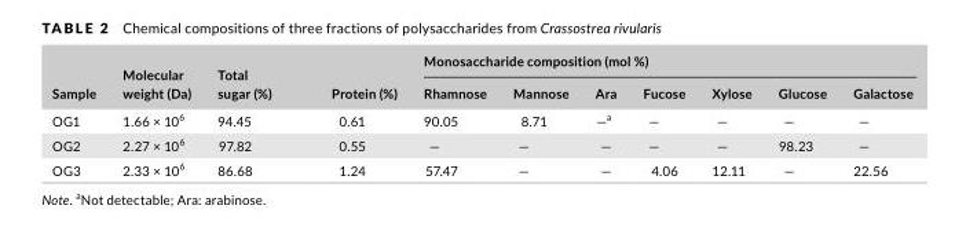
<table><thead><tr><td rowspan="2">Sample</td><td rowspan="2">Molecular weight (Da)</td><td rowspan="2">Total sugar (%)</td><td rowspan="2">Protein (%)</td><td colspan="7">Monosaccharide composition (mol %)</td></tr><tr><td>Rhamnose</td><td>Mannose</td><td>Ara</td><td>Fucose</td><td>Xylose</td><td>Glucose</td><td>Galactose</td></tr></thead><tbody><tr><td>OG1</td><td>1.66 × 10<sup>6</sup></td><td>94.45</td><td>0.61</td><td>90.05</td><td>8.71</td><td>—a</td><td>—</td><td>—</td><td>—</td><td>—</td></tr><tr><td>OG2</td><td>2.27 × 10<sup>6</sup></td><td>97.82</td><td>0.55</td><td>—</td><td>—</td><td>—</td><td>—</td><td>—</td><td>98.23</td><td>—</td></tr><tr><td>OG3</td><td>2.33 × 10<sup>6</sup></td><td>86.68</td><td>1.24</td><td>57.47</td><td>—</td><td>—</td><td>4.06</td><td>12.11</td><td>—</td><td>22.56</td></tr></tbody></table>